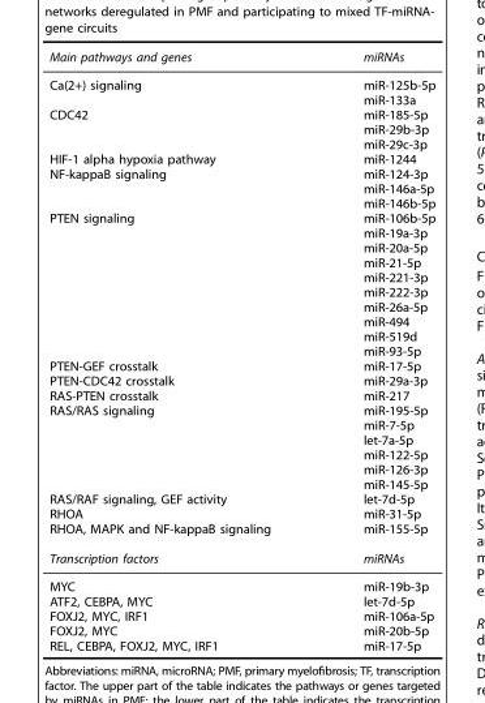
<table><thead><tr><td>Main pathways and genes</td><td>miRNAs</td></tr></thead><tbody><tr><td rowspan="2">Ca(2+) signaling</td><td>miR-125b-5p</td></tr><tr><td>miR-133a</td></tr><tr><td rowspan="3">CDC42</td><td>miR-185-5p</td></tr><tr><td>miR-29b-3p</td></tr><tr><td>miR-29c-3p</td></tr><tr><td>HIF-1 alpha hypoxia pathway</td><td>miR-1244</td></tr><tr><td rowspan="3">NF-kappaB signaling</td><td>miR-124-3p</td></tr><tr><td>miR-146a-5p</td></tr><tr><td>miR-146b-5p</td></tr><tr><td rowspan="10">PTEN signaling</td><td>miR-106b-5p</td></tr><tr><td>miR-19a-3p</td></tr><tr><td>miR-20a-5p</td></tr><tr><td>miR-21-5p</td></tr><tr><td>miR-221-3p</td></tr><tr><td>miR-222-3p</td></tr><tr><td>miR-26a-5p</td></tr><tr><td>miR-494</td></tr><tr><td>miR-519d</td></tr><tr><td>miR-93-5p</td></tr><tr><td>PTEN-GEF crosstalk</td><td>miR-17-5p</td></tr><tr><td>PTEN-CDC42 crosstalk</td><td>miR-29a-3p</td></tr><tr><td>RAS-PTEN crosstalk</td><td>miR-217</td></tr><tr><td rowspan="6">RAS/RAS signaling</td><td>miR-195-5p</td></tr><tr><td>miR-7-5p</td></tr><tr><td>let-7a-5p</td></tr><tr><td>miR-122-5p</td></tr><tr><td>miR-126-3p</td></tr><tr><td>miR-145-5p</td></tr><tr><td>RAS/RAF signaling, GEF activity</td><td>let-7d-5p</td></tr><tr><td>RHOA</td><td>miR-31-5p</td></tr><tr><td>RHOA, MAPK and NF-kappaB signaling</td><td>miR-155-5p</td></tr><tr><td>Transcription factors</td><td>miRNAs</td></tr><tr><td>MYC</td><td>miR-19b-3p</td></tr><tr><td>ATF2, CEBPA, MYC</td><td>let-7d-5p</td></tr><tr><td>FOXJ2, MYC, IRF1</td><td>miR-106a-5p</td></tr><tr><td>FOXJ2, MYC</td><td>miR-20b-5p</td></tr><tr><td>REL, CEBPA, FOXJ2, MYC, IRF1</td><td>miR-17-5p</td></tr></tbody></table>